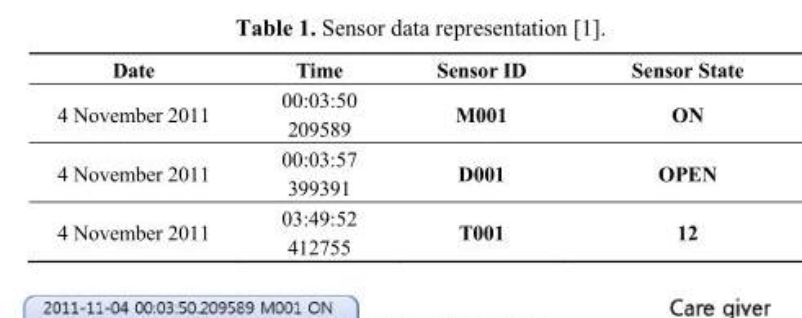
<table><thead><tr><td>Date</td><td>Time</td><td>Sensor ID</td><td>Sensor State</td></tr></thead><tbody><tr><td>4 November 2011</td><td>00:03:50 209589</td><td>M001</td><td>ON</td></tr><tr><td>4 November 2011</td><td>00:03:57 399391</td><td>D001</td><td>OPEN</td></tr><tr><td>4 November 2011</td><td>03:49:52 412755</td><td>T001</td><td>12</td></tr></tbody></table>